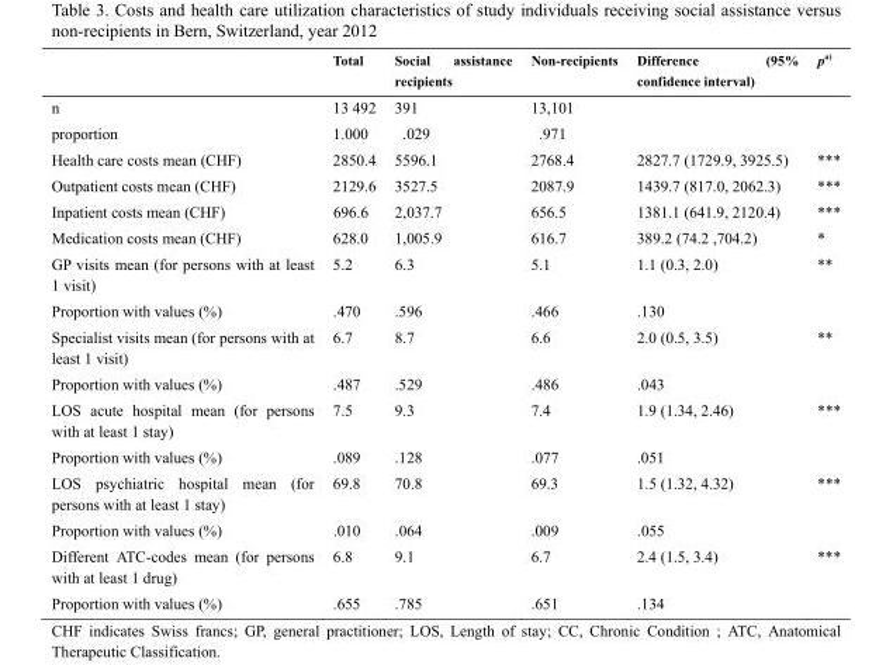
<table><thead><tr><td></td><td>Total</td><td>Social assistance recipients</td><td>Non-recipients</td><td>Difference (95% confidence interval)</td><td>p<sup>a)</sup></td></tr></thead><tbody><tr><td>n</td><td>13 492</td><td>391</td><td>13,101</td><td></td><td></td></tr><tr><td>proportion</td><td>1.000</td><td>.029</td><td>.971</td><td></td><td></td></tr><tr><td>Health care costs mean (CHF)</td><td>2850.4</td><td>5596.1</td><td>2768.4</td><td>2827.7 (1729.9, 3925.5)</td><td>***</td></tr><tr><td>Outpatient costs mean (CHF)</td><td>2129.6</td><td>3527.5</td><td>2087.9</td><td>1439.7 (817.0, 2062.3)</td><td>***</td></tr><tr><td>Inpatient costs mean (CHF)</td><td>696.6</td><td>2,037.7</td><td>656.5</td><td>1381.1 (641.9, 2120.4)</td><td>***</td></tr><tr><td>Medication costs mean (CHF)</td><td>628.0</td><td>1,005.9</td><td>616.7</td><td>389.2 (74.2 ,704.2)</td><td>*</td></tr><tr><td>GP visits mean (for persons with at least 1 visit)</td><td>5.2</td><td>6.3</td><td>5.1</td><td>1.1 (0.3, 2.0)</td><td>**</td></tr><tr><td>Proportion with values (%)</td><td>.470</td><td>.596</td><td>.466</td><td>.130</td><td></td></tr><tr><td>Specialist visits mean (for persons with at least 1 visit)</td><td>6.7</td><td>8.7</td><td>6.6</td><td>2.0 (0.5, 3.5)</td><td>**</td></tr><tr><td>Proportion with values (%)</td><td>.487</td><td>.529</td><td>.486</td><td>.043</td><td></td></tr><tr><td>LOS acute hospital mean (for persons with at least 1 stay)</td><td>7.5</td><td>9.3</td><td>7.4</td><td>1.9 (1.34, 2.46)</td><td>***</td></tr><tr><td>Proportion with values (%)</td><td>.089</td><td>.128</td><td>.077</td><td>.051</td><td></td></tr><tr><td>LOS psychiatric hospital mean (for persons with at least 1 stay)</td><td>69.8</td><td>70.8</td><td>69.3</td><td>1.5 (1.32, 4.32)</td><td>***</td></tr><tr><td>Proportion with values (%)</td><td>.010</td><td>.064</td><td>.009</td><td>.055</td><td></td></tr><tr><td>Different ATC-codes mean (for persons with at least 1 drug)</td><td>6.8</td><td>9.1</td><td>6.7</td><td>2.4 (1.5, 3.4)</td><td>***</td></tr><tr><td>Proportion with values (%)</td><td>.655</td><td>.785</td><td>.651</td><td>.134</td><td></td></tr></tbody></table>